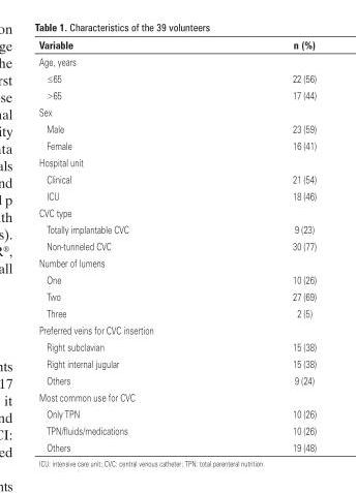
<table><thead><tr><td>Variable</td><td>n (%)</td></tr></thead><tbody><tr><td colspan="2">Age, years</td></tr><tr><td>≤65</td><td>22 (56)</td></tr><tr><td>&gt;65</td><td>17 (44)</td></tr><tr><td colspan="2">Sex</td></tr><tr><td>Male</td><td>23 (59)</td></tr><tr><td>Female</td><td>16 (41)</td></tr><tr><td colspan="2">Hospital unit</td></tr><tr><td>Clinical</td><td>21 (54)</td></tr><tr><td>ICU</td><td>18 (46)</td></tr><tr><td colspan="2">CVC type</td></tr><tr><td>Totally implantable CVC</td><td>9 (23)</td></tr><tr><td>Non-tunneled CVC</td><td>30 (77)</td></tr><tr><td colspan="2">Number of lumens</td></tr><tr><td>One</td><td>10 (26)</td></tr><tr><td>Two</td><td>27 (69)</td></tr><tr><td>Three</td><td>2 (5)</td></tr><tr><td colspan="2">Preferred veins for CVC insertion</td></tr><tr><td>Right subclavian</td><td>15 (38)</td></tr><tr><td>Right internal jugular</td><td>15 (38)</td></tr><tr><td>Others</td><td>9 (24)</td></tr><tr><td colspan="2">Most common use for CVC</td></tr><tr><td>Only TPN</td><td>10 (26)</td></tr><tr><td>TPN/fluids/medications</td><td>10 (26)</td></tr><tr><td>Others</td><td>19 (48)</td></tr></tbody></table>